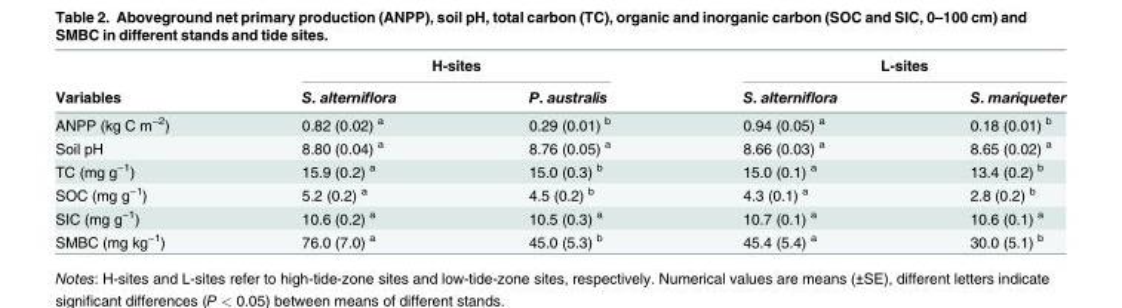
<table><thead><tr><td rowspan="2">Variables</td><td colspan="2">H-sites</td><td colspan="2">L-sites</td></tr><tr><td>S. alterniflora</td><td>P. australis</td><td>S. alterniflora</td><td>S. mariqueter</td></tr></thead><tbody><tr><td>ANPP (kg C m<sup>−2</sup>)</td><td>0.82 (0.02) <sup>a</sup></td><td>0.29 (0.01) <sup>b</sup></td><td>0.94 (0.05) <sup>a</sup></td><td>0.18 (0.01) <sup>b</sup></td></tr><tr><td>Soil pH</td><td>8.80 (0.04) <sup>a</sup></td><td>8.76 (0.05) <sup>a</sup></td><td>8.66 (0.03) <sup>a</sup></td><td>8.65 (0.02) <sup>a</sup></td></tr><tr><td>TC (mg g<sup>−1</sup>)</td><td>15.9 (0.2) <sup>a</sup></td><td>15.0 (0.3) <sup>b</sup></td><td>15.0 (0.1) <sup>a</sup></td><td>13.4 (0.2) <sup>b</sup></td></tr><tr><td>SOC (mg g<sup>−1</sup>)</td><td>5.2 (0.2) <sup>a</sup></td><td>4.5 (0.2) <sup>b</sup></td><td>4.3 (0.1) <sup>a</sup></td><td>2.8 (0.2) <sup>b</sup></td></tr><tr><td>SIC (mg g<sup>−1</sup>)</td><td>10.6 (0.2) <sup>a</sup></td><td>10.5 (0.3) <sup>a</sup></td><td>10.7 (0.1) <sup>a</sup></td><td>10.6 (0.1) <sup>a</sup></td></tr><tr><td>SMBC (mg kg<sup>−1</sup>)</td><td>76.0 (7.0) <sup>a</sup></td><td>45.0 (5.3) <sup>b</sup></td><td>45.4 (5.4) <sup>a</sup></td><td>30.0 (5.1) <sup>b</sup></td></tr></tbody></table>